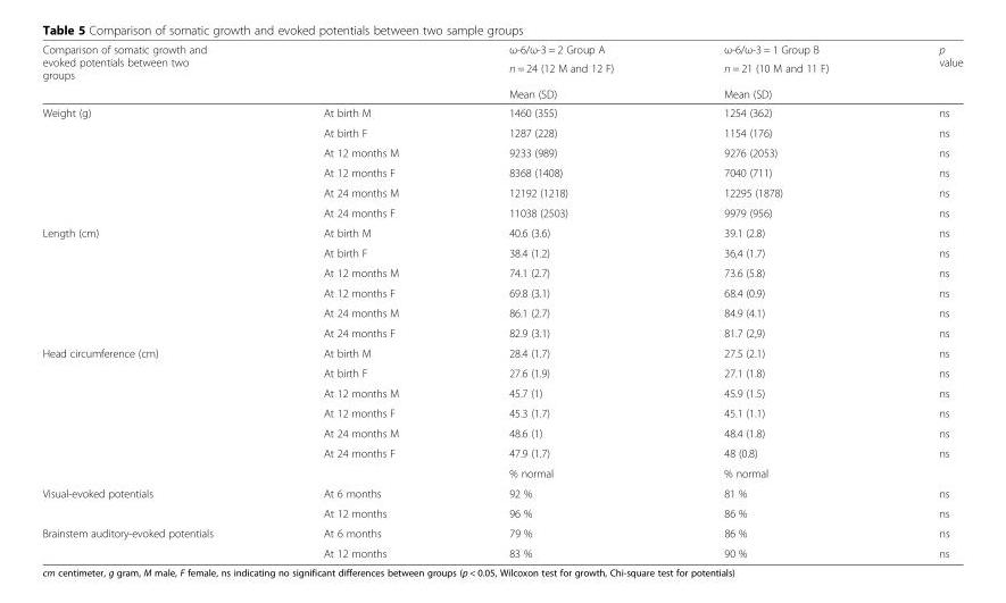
<table><thead><tr><td rowspan="3">Comparison of somatic growth and evoked potentials between two groups</td><td rowspan="3"></td><td rowspan="3">ω-6/ω-3 = 2 Group A n = 24 (12 M and 12 F) Mean (SD)</td><td rowspan="3">ω-6/ω-3 = 1 Group B n = 21 (10 M and 11 F) Mean (SD)</td><td rowspan="3">p value</td></tr><tr></tr><tr></tr></thead><tbody><tr><td rowspan="6">Weight (g)</td><td>At birth M</td><td>1460 (355)</td><td>1254 (362)</td><td>ns</td></tr><tr><td>At birth F</td><td>1287 (228)</td><td>1154 (176)</td><td>ns</td></tr><tr><td>At 12 months M</td><td>9233 (989)</td><td>9276 (2053)</td><td>ns</td></tr><tr><td>At 12 months F</td><td>8368 (1408)</td><td>7040 (711)</td><td>ns</td></tr><tr><td>At 24 months M</td><td>12192 (1218)</td><td>12295 (1878)</td><td>ns</td></tr><tr><td>At 24 months F</td><td>11038 (2503)</td><td>9979 (956)</td><td>ns</td></tr><tr><td rowspan="6">Length (cm)</td><td>At birth M</td><td>40.6 (3.6)</td><td>39.1 (2.8)</td><td>ns</td></tr><tr><td>At birth F</td><td>38.4 (1.2)</td><td>36,4 (1.7)</td><td>ns</td></tr><tr><td>At 12 months M</td><td>74.1 (2.7)</td><td>73.6 (5.8)</td><td>ns</td></tr><tr><td>At 12 months F</td><td>69.8 (3.1)</td><td>68.4 (0.9)</td><td>ns</td></tr><tr><td>At 24 months M</td><td>86.1 (2.7)</td><td>84.9 (4.1)</td><td>ns</td></tr><tr><td>At 24 months F</td><td>82.9 (3.1)</td><td>81.7 (2,9)</td><td>ns</td></tr><tr><td rowspan="7">Head circumference (cm)</td><td>At birth M</td><td>28.4 (1.7)</td><td>27.5 (2.1)</td><td>ns</td></tr><tr><td>At birth F</td><td>27.6 (1.9)</td><td>27.1 (1.8)</td><td>ns</td></tr><tr><td>At 12 months M</td><td>45.7 (1)</td><td>45.9 (1.5)</td><td>ns</td></tr><tr><td>At 12 months F</td><td>45.3 (1.7)</td><td>45.1 (1.1)</td><td>ns</td></tr><tr><td>At 24 months M</td><td>48.6 (1)</td><td>48.4 (1.8)</td><td>ns</td></tr><tr><td>At 24 months F</td><td>47.9 (1.7)</td><td>48 (0.8)</td><td>ns</td></tr><tr><td></td><td>% normal</td><td>% normal</td><td></td></tr><tr><td rowspan="2">Visual-evoked potentials</td><td>At 6 months</td><td>92 %</td><td>81 %</td><td>ns</td></tr><tr><td>At 12 months</td><td>96 %</td><td>86 %</td><td>ns</td></tr><tr><td rowspan="2">Brainstem auditory-evoked potentials</td><td>At 6 months</td><td>79 %</td><td>86 %</td><td>ns</td></tr><tr><td>At 12 months</td><td>83 %</td><td>90 %</td><td>ns</td></tr></tbody></table>